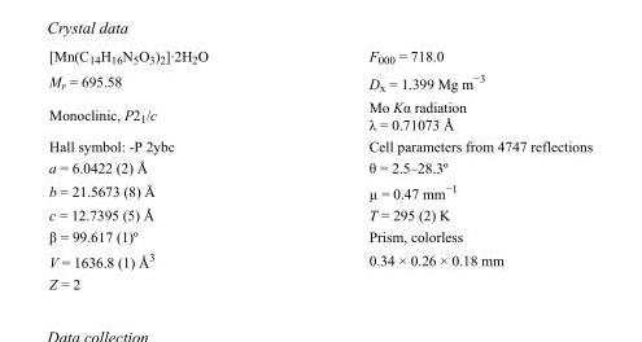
<table><tbody><tr><td>[Mn(C<sub>14</sub>H<sub>16</sub>N<sub>5</sub>O<sub>3</sub>)<sub>2</sub>]·2H<sub>2</sub>O</td><td>F<sub>000</sub> = 718.0</td></tr><tr><td>M<sub>r</sub> = 695.58</td><td>D<sub>x</sub> = 1.399 Mg m<sup>−3</sup></td></tr><tr><td>Monoclinic, P2<sub>1</sub>/c</td><td>Mo Kα radiation λ = 0.71073 Å</td></tr><tr><td>Hall symbol: -P 2ybc</td><td>Cell parameters from 4747 reflections</td></tr><tr><td>a = 6.0422 (2) Å</td><td>θ = 2.5–28.3º</td></tr><tr><td>b = 21.5673 (8) Å</td><td>µ = 0.47 mm<sup>−1</sup></td></tr><tr><td>c = 12.7395 (5) Å</td><td>T = 295 (2) K</td></tr><tr><td>β = 99.617 (1)º</td><td>Prism, colorless</td></tr><tr><td>V = 1636.8 (1) Å<sup>3</sup></td><td>0.34 × 0.26 × 0.18 mm</td></tr><tr><td>Z = 2</td><td></td></tr></tbody></table>